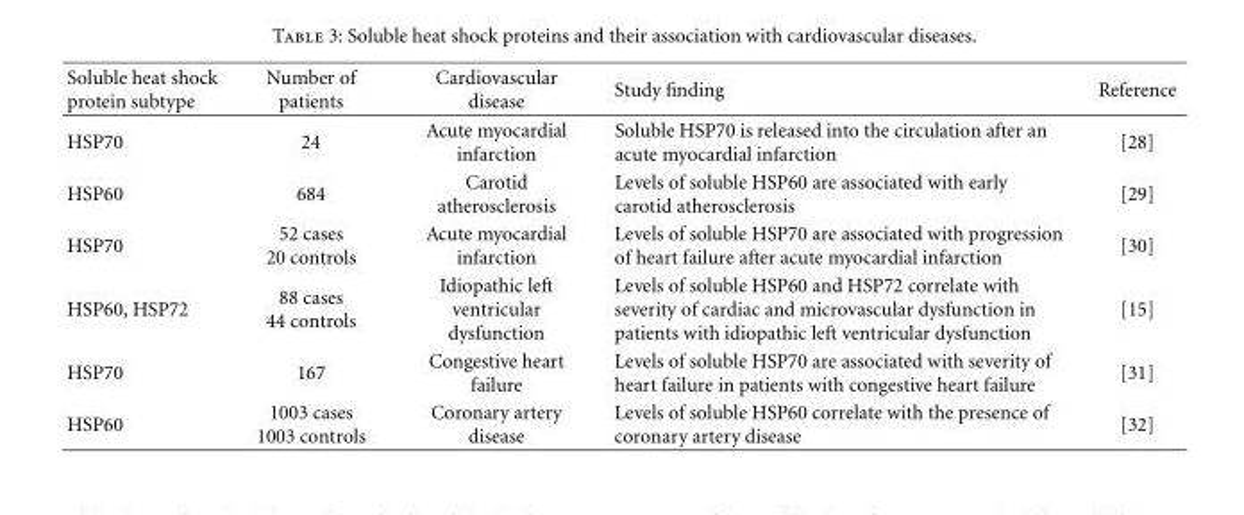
<table><thead><tr><td>Soluble heat shock protein subtype</td><td>Number of patients</td><td>Cardiovascular disease</td><td>Study finding</td><td>Reference</td></tr></thead><tbody><tr><td>HSP70</td><td>24</td><td>Acute myocardial infarction</td><td>Soluble HSP70 is released into the circulation after an acute myocardial infarction</td><td>[28]</td></tr><tr><td>HSP60</td><td>684</td><td>Carotid atherosclerosis</td><td>Levels of soluble HSP60 are associated with early carotid atherosclerosis</td><td>[29]</td></tr><tr><td>HSP70</td><td>52 cases 20 controls</td><td>Acute myocardial infarction</td><td>Levels of soluble HSP70 are associated with progression of heart failure after acute myocardial infarction</td><td>[30]</td></tr><tr><td>HSP60, HSP72</td><td>88 cases 44 controls</td><td>Idiopathic left ventricular dysfunction</td><td>Levels of soluble HSP60 and HSP72 correlate with severity of cardiac and microvascular dysfunction in patients with idiopathic left ventricular dysfunction</td><td>[15]</td></tr><tr><td>HSP70</td><td>167</td><td>Congestive heart failure</td><td>Levels of soluble HSP70 are associated with severity of heart failure in patients with congestive heart failure</td><td>[31]</td></tr><tr><td>HSP60</td><td>1003 cases 1003 controls</td><td>Coronary artery disease</td><td>Levels of soluble HSP60 correlate with the presence of coronary artery disease</td><td>[32]</td></tr></tbody></table>